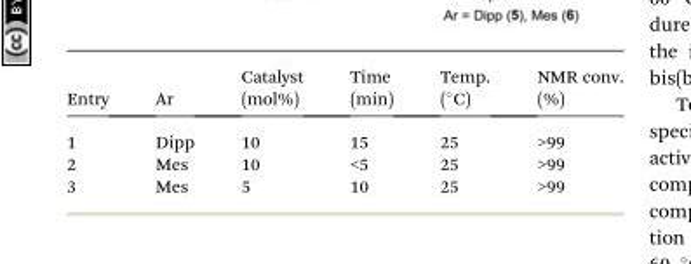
<table><thead><tr><td>Entry</td><td>Ar</td><td>Catalyst (mol%)</td><td>Time (min)</td><td>Temp. (°C)</td><td>NMR conv. (%)</td></tr></thead><tbody><tr><td>1</td><td>Dipp</td><td>10</td><td>15</td><td>25</td><td>&gt;99</td></tr><tr><td>2</td><td>Mes</td><td>10</td><td>&lt;5</td><td>25</td><td>&gt;99</td></tr><tr><td>3</td><td>Mes</td><td>5</td><td>10</td><td>25</td><td>&gt;99</td></tr></tbody></table>